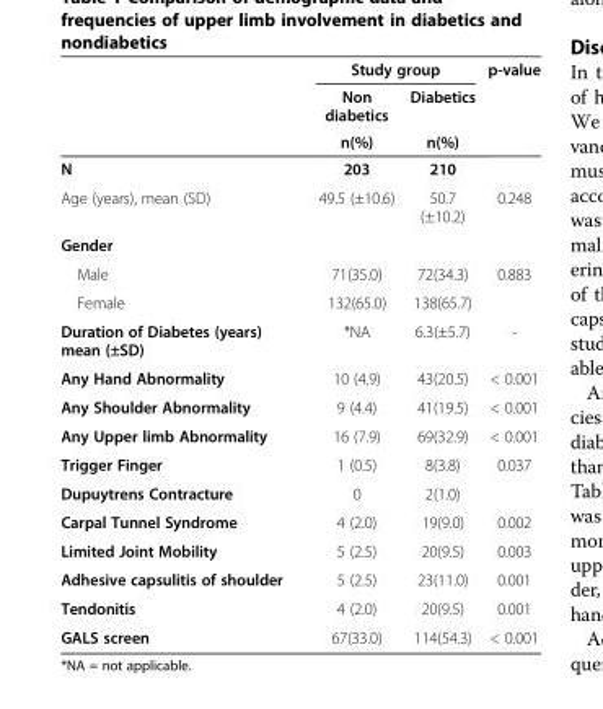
<table><thead><tr><td rowspan="3"></td><td colspan="2">Study group</td><td rowspan="3">p-value</td></tr><tr><td rowspan="2">Non diabetics n(%)</td><td rowspan="2">Diabetics n(%)</td></tr><tr></tr></thead><tbody><tr><td>N</td><td>203</td><td>210</td><td></td></tr><tr><td>Age (years), mean (SD)</td><td>49.5 (±10.6)</td><td>50.7 (±10.2)</td><td>0.248</td></tr><tr><td colspan="4">Gender</td></tr><tr><td>Male</td><td>71(35.0)</td><td>72(34.3)</td><td rowspan="2">0.883</td></tr><tr><td>Female</td><td>132(65.0)</td><td>138(65.7)</td></tr><tr><td>Duration of Diabetes (years) mean (±SD)</td><td>*NA</td><td>6.3(±5.7)</td><td>-</td></tr><tr><td>Any Hand Abnormality</td><td>10 (4.9)</td><td>43(20.5)</td><td>&lt; 0.001</td></tr><tr><td>Any Shoulder Abnormality</td><td>9 (4.4)</td><td>41(19.5)</td><td>&lt; 0.001</td></tr><tr><td>Any Upper limb Abnormality</td><td>16 (7.9)</td><td>69(32.9)</td><td>&lt; 0.001</td></tr><tr><td>Trigger Finger</td><td>1 (0.5)</td><td>8(3.8)</td><td>0.037</td></tr><tr><td>Dupuytrens Contracture</td><td>0</td><td>2(1.0)</td><td></td></tr><tr><td>Carpal Tunnel Syndrome</td><td>4 (2.0)</td><td>19(9.0)</td><td>0.002</td></tr><tr><td>Limited Joint Mobility</td><td>5 (2.5)</td><td>20(9.5)</td><td>0.003</td></tr><tr><td>Adhesive capsulitis of shoulder</td><td>5 (2.5)</td><td>23(11.0)</td><td>0.001</td></tr><tr><td>Tendonitis</td><td>4 (2.0)</td><td>20(9.5)</td><td>0.001</td></tr><tr><td>GALS screen</td><td>67(33.0)</td><td>114(54.3)</td><td>&lt; 0.001</td></tr></tbody></table>